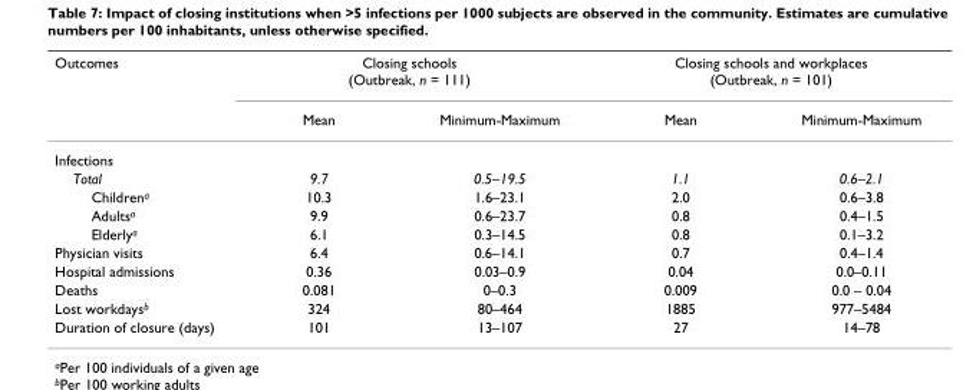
<table><thead><tr><td rowspan="2">Outcomes</td><td colspan="2">Closing schools (Outbreak, n = 111)</td><td colspan="2">Closing schools and workplaces (Outbreak, n = 101)</td></tr><tr><td>Mean</td><td>Minimum-Maximum</td><td>Mean</td><td>Minimum-Maximum</td></tr></thead><tbody><tr><td colspan="5">Infections</td></tr><tr><td>Total</td><td>9.7</td><td>0.5–19.5</td><td>1.1</td><td>0.6–2.1</td></tr><tr><td>Childrena</td><td>10.3</td><td>1.6–23.1</td><td>2.0</td><td>0.6–3.8</td></tr><tr><td>Adultsa</td><td>9.9</td><td>0.6–23.7</td><td>0.8</td><td>0.4–1.5</td></tr><tr><td>Elderlya</td><td>6.1</td><td>0.3–14.5</td><td>0.8</td><td>0.1–3.2</td></tr><tr><td>Physician visits</td><td>6.4</td><td>0.6–14.1</td><td>0.7</td><td>0.4–1.4</td></tr><tr><td>Hospital admissions</td><td>0.36</td><td>0.03–0.9</td><td>0.04</td><td>0.0–0.11</td></tr><tr><td>Deaths</td><td>0.081</td><td>0–0.3</td><td>0.009</td><td>0.0 – 0.04</td></tr><tr><td>Lost workdaysb</td><td>324</td><td>80–464</td><td>1885</td><td>977–5484</td></tr><tr><td>Duration of closure (days)</td><td>101</td><td>13–107</td><td>27</td><td>14–78</td></tr></tbody></table>